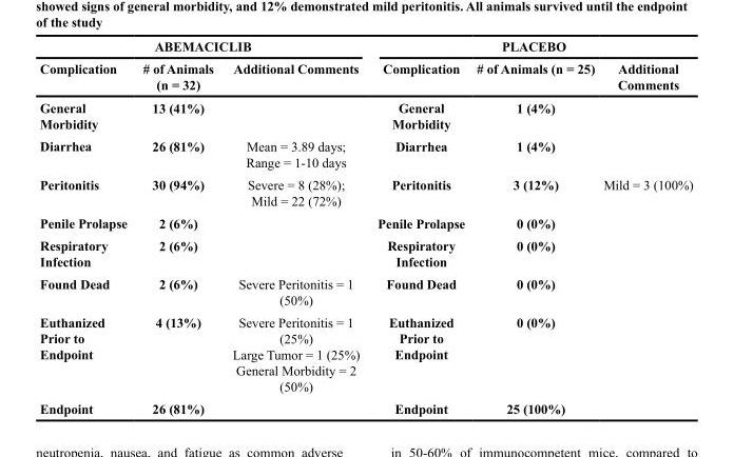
<table><thead><tr><td colspan="3">ABEMACICLIB</td><td colspan="3">PLACEBO</td></tr><tr><td>Complication</td><td># of Animals (n = 32)</td><td>Additional Comments</td><td>Complication</td><td># of Animals (n = 25)</td><td>Additional Comments</td></tr></thead><tbody><tr><td>General Morbidity</td><td>13 (41%)</td><td></td><td>General Morbidity</td><td>1 (4%)</td><td></td></tr><tr><td>Diarrhea</td><td>26 (81%)</td><td>Mean = 3.89 days; Range = 1-10 days</td><td>Diarrhea</td><td>1 (4%)</td><td></td></tr><tr><td>Peritonitis</td><td>30 (94%)</td><td>Severe = 8 (28%); Mild = 22 (72%)</td><td>Peritonitis</td><td>3 (12%)</td><td>Mild = 3 (100%)</td></tr><tr><td>Penile Prolapse</td><td>2 (6%)</td><td></td><td>Penile Prolapse</td><td>0 (0%)</td><td></td></tr><tr><td>Respiratory Infection</td><td>2 (6%)</td><td></td><td>Respiratory Infection</td><td>0 (0%)</td><td></td></tr><tr><td>Found Dead</td><td>2 (6%)</td><td>Severe Peritonitis = 1 (50%)</td><td>Found Dead</td><td>0 (0%)</td><td></td></tr><tr><td>Euthanized Prior to Endpoint</td><td>4 (13%)</td><td>Severe Peritonitis = 1 (25%) Large Tumor = 1 (25%) General Morbidity = 2 (50%)</td><td>Euthanized Prior to Endpoint</td><td>0 (0%)</td><td></td></tr><tr><td>Endpoint</td><td>26 (81%)</td><td></td><td>Endpoint</td><td>25 (100%)</td><td></td></tr></tbody></table>